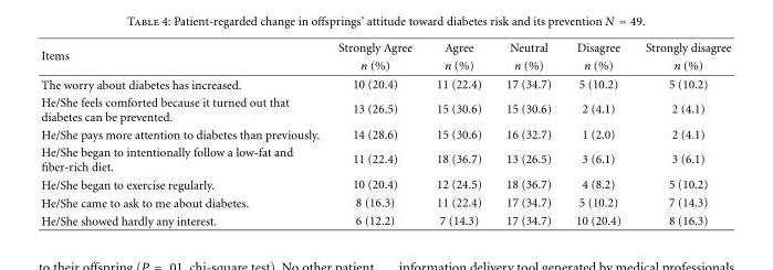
<table><thead><tr><td rowspan="2">Items</td><td rowspan="2">Strongly Agree n (%)</td><td rowspan="2">Agree n (%)</td><td rowspan="2">Neutral n (%)</td><td rowspan="2">Disagree n (%)</td><td rowspan="2">Strongly disagree n (%)</td></tr><tr></tr></thead><tbody><tr><td>The worry about diabetes has increased.</td><td>10 (20.4)</td><td>11 (22.4)</td><td>17 (34.7)</td><td>5 (10.2)</td><td>5 (10.2)</td></tr><tr><td>He/She feels comforted because it turned out that diabetes can be prevented.</td><td>13 (26.5)</td><td>15 (30.6)</td><td>15 (30.6)</td><td>2 (4.1)</td><td>2 (4.1)</td></tr><tr><td>He/She pays more attention to diabetes than previously.</td><td>14 (28.6)</td><td>15 (30.6)</td><td>16 (32.7)</td><td>1 (2.0)</td><td>2 (4.1)</td></tr><tr><td>He/She began to intentionally follow a low-fat and fiber-rich diet.</td><td>11 (22.4)</td><td>18 (36.7)</td><td>13 (26.5)</td><td>3 (6.1)</td><td>3 (6.1)</td></tr><tr><td>He/She began to exercise regularly.</td><td>10 (20.4)</td><td>12 (24.5)</td><td>18 (36.7)</td><td>4 (8.2)</td><td>5 (10.2)</td></tr><tr><td>He/She came to ask to me about diabetes.</td><td>8 (16.3)</td><td>11 (22.4)</td><td>17 (34.7)</td><td>5 (10.2)</td><td>7 (14.3)</td></tr><tr><td>He/She showed hardly any interest.</td><td>6 (12.2)</td><td>7 (14.3)</td><td>17 (34.7)</td><td>10 (20.4)</td><td>8 (16.3)</td></tr></tbody></table>